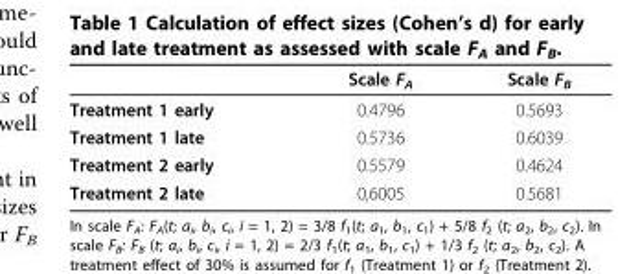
<table><thead><tr><td></td><td>Scale F<sub>A</sub></td><td>Scale F<sub>B</sub></td></tr></thead><tbody><tr><td>Treatment 1 early</td><td>0.4796</td><td>0.5693</td></tr><tr><td>Treatment 1 late</td><td>0.5736</td><td>0.6039</td></tr><tr><td>Treatment 2 early</td><td>0.5579</td><td>0.4624</td></tr><tr><td>Treatment 2 late</td><td>0,6005</td><td>0.5681</td></tr></tbody></table>